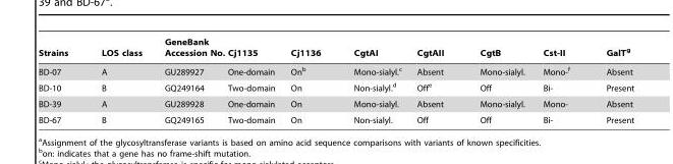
<table><thead><tr><td>Strains</td><td>LOS class</td><td>GeneBank Accession No.</td><td>Cj1135</td><td>Cj1136</td><td>CgtAI</td><td>CgtAII</td><td>CgtB</td><td>Cst-II</td><td>GalT<sup>g</sup></td></tr></thead><tbody><tr><td>BD-07</td><td>A</td><td>GU289927</td><td>One-domain</td><td>On<sup>b</sup></td><td>Mono-sialyl.<sup>c</sup></td><td>Absent</td><td>Mono-sialyl.</td><td>Mono-f</td><td>Absent</td></tr><tr><td>BD-10</td><td>B</td><td>GQ249164</td><td>Two-domain</td><td>On</td><td>Non-sialyl.<sup>d</sup></td><td>Off<sup>e</sup></td><td>Off</td><td>Bi-</td><td>Present</td></tr><tr><td>BD-39</td><td>A</td><td>GU289928</td><td>One-domain</td><td>On</td><td>Mono-sialyl.</td><td>Absent</td><td>Mono-sialyl.</td><td>Mono-</td><td>Absent</td></tr><tr><td>BD-67</td><td>B</td><td>GQ249165</td><td>Two-domain</td><td>On</td><td>Non-sialyl.</td><td>Off</td><td>Off</td><td>Bi-</td><td>Present</td></tr></tbody></table>